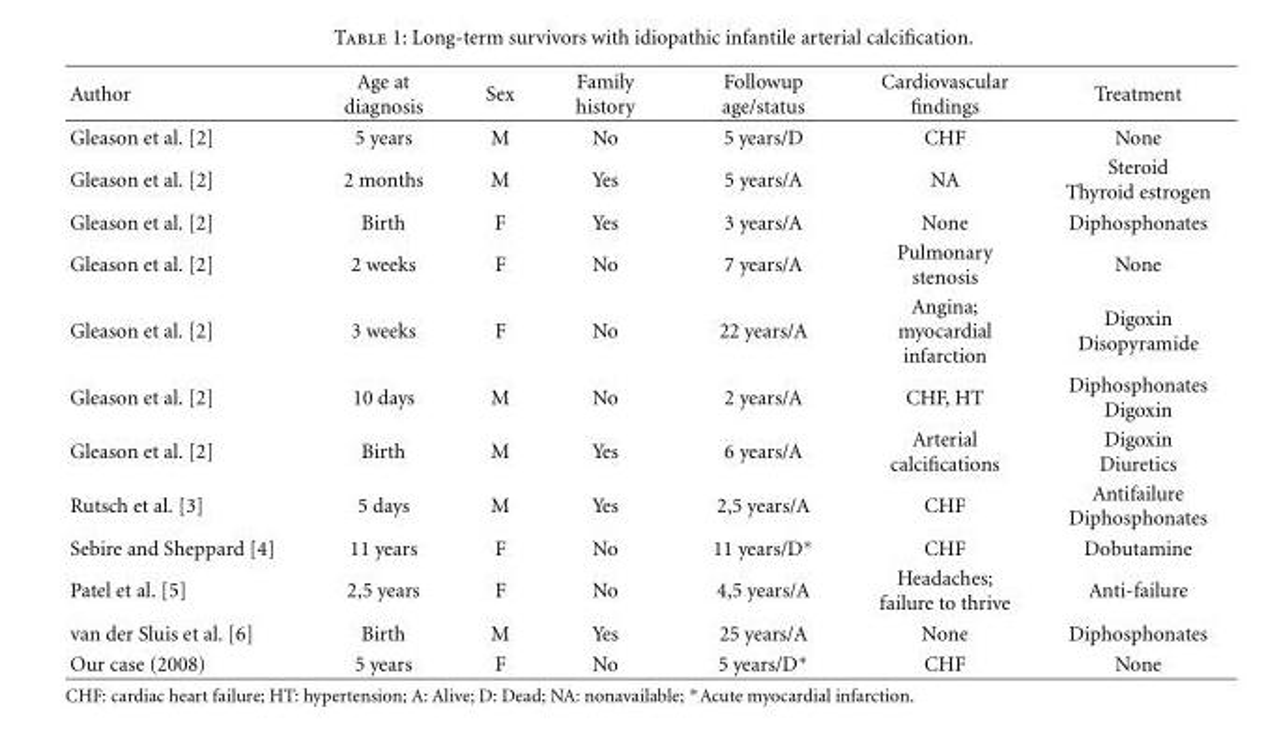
<table><thead><tr><td>Author</td><td>Age at diagnosis</td><td>Sex</td><td>Family history</td><td>Followup age/status</td><td>Cardiovascular findings</td><td>Treatment</td></tr></thead><tbody><tr><td>Gleason et al. [2]</td><td>5 years</td><td>M</td><td>No</td><td>5 years/D</td><td>CHF</td><td>None</td></tr><tr><td>Gleason et al. [2]</td><td>2 months</td><td>M</td><td>Yes</td><td>5 years/A</td><td>NA</td><td>Steroid Thyroid estrogen</td></tr><tr><td>Gleason et al. [2]</td><td>Birth</td><td>F</td><td>Yes</td><td>3 years/A</td><td>None</td><td>Diphosphonates</td></tr><tr><td>Gleason et al. [2]</td><td>2 weeks</td><td>F</td><td>No</td><td>7 years/A</td><td>Pulmonary stenosis</td><td>None</td></tr><tr><td>Gleason et al. [2]</td><td>3 weeks</td><td>F</td><td>No</td><td>22 years/A</td><td>Angina; myocardial infarction</td><td>Digoxin Disopyramide</td></tr><tr><td>Gleason et al. [2]</td><td>10 days</td><td>M</td><td>No</td><td>2 years/A</td><td>CHF, HT</td><td>Diphosphonates Digoxin</td></tr><tr><td>Gleason et al. [2]</td><td>Birth</td><td>M</td><td>Yes</td><td>6 years/A</td><td>Arterial calcifications</td><td>Digoxin Diuretics</td></tr><tr><td>Rutsch et al. [3]</td><td>5 days</td><td>M</td><td>Yes</td><td>2,5 years/A</td><td>CHF</td><td>Antifailure Diphosphonates</td></tr><tr><td>Sebire and Sheppard [4]</td><td>11 years</td><td>F</td><td>No</td><td>11 years/D∗</td><td>CHF</td><td>Dobutamine</td></tr><tr><td>Patel et al. [5]</td><td>2,5 years</td><td>F</td><td>No</td><td>4,5 years/A</td><td>Headaches; failure to thrive</td><td>Anti-failure</td></tr><tr><td>van der Sluis et al. [6]</td><td>Birth</td><td>M</td><td>Yes</td><td>25 years/A</td><td>None</td><td>Diphosphonates</td></tr><tr><td>Our case (2008)</td><td>5 years</td><td>F</td><td>No</td><td>5 years/D∗</td><td>CHF</td><td>None</td></tr></tbody></table>